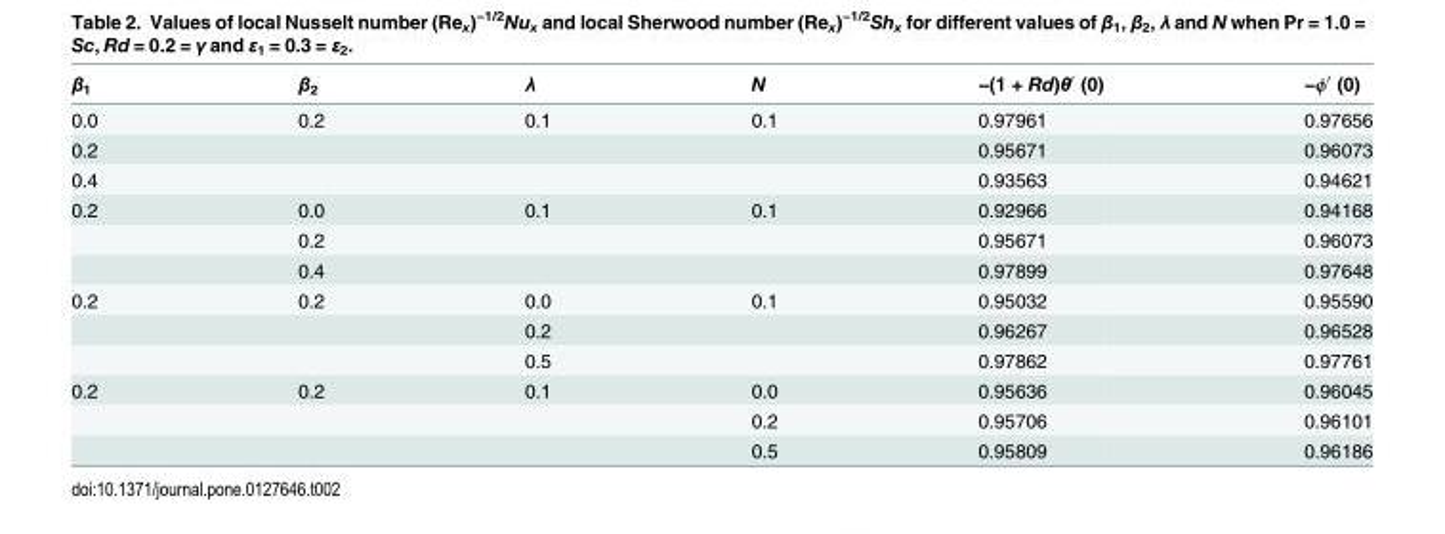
<table><thead><tr><td>β<sub>1</sub></td><td>β<sub>2</sub></td><td>λ</td><td>N</td><td>−(1 + Rd)θ′ (0)</td><td>−ϕ′ (0)</td></tr></thead><tbody><tr><td>0.0</td><td>0.2</td><td>0.1</td><td>0.1</td><td>0.97961</td><td>0.97656</td></tr><tr><td>0.2</td><td></td><td></td><td></td><td>0.95671</td><td>0.96073</td></tr><tr><td>0.4</td><td></td><td></td><td></td><td>0.93563</td><td>0.94621</td></tr><tr><td rowspan="3">0.2</td><td>0.0</td><td>0.1</td><td>0.1</td><td>0.92966</td><td>0.94168</td></tr><tr><td>0.2</td><td></td><td></td><td>0.95671</td><td>0.96073</td></tr><tr><td>0.4</td><td></td><td></td><td>0.97899</td><td>0.97648</td></tr><tr><td rowspan="3">0.2</td><td>0.2</td><td>0.0</td><td>0.1</td><td>0.95032</td><td>0.95590</td></tr><tr><td></td><td>0.2</td><td></td><td>0.96267</td><td>0.96528</td></tr><tr><td></td><td>0.5</td><td></td><td>0.97862</td><td>0.97761</td></tr><tr><td rowspan="3">0.2</td><td>0.2</td><td>0.1</td><td>0.0</td><td>0.95636</td><td>0.96045</td></tr><tr><td></td><td></td><td>0.2</td><td>0.95706</td><td>0.96101</td></tr><tr><td></td><td></td><td>0.5</td><td>0.95809</td><td>0.96186</td></tr></tbody></table>